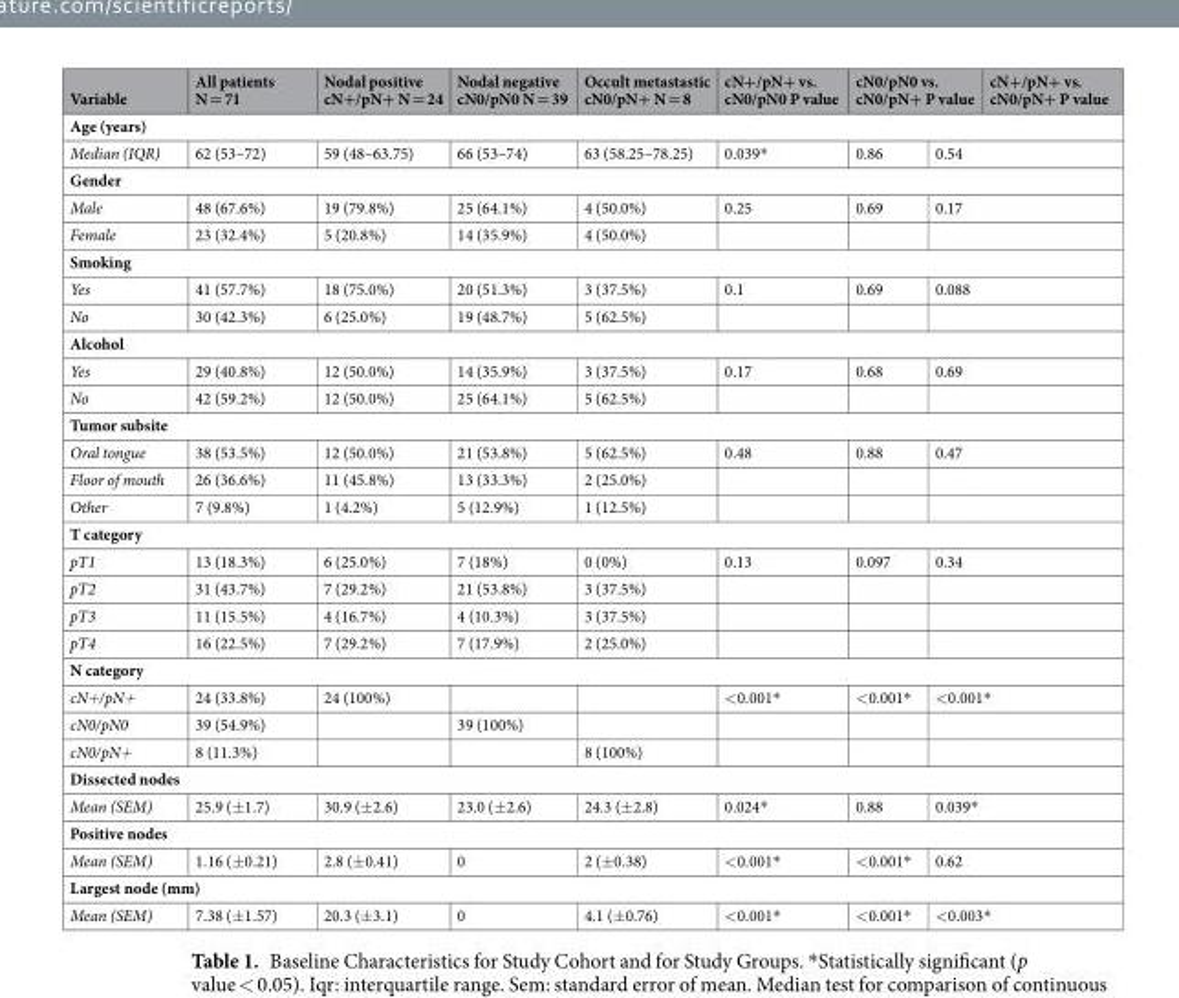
<table><thead><tr><td>Variable</td><td>All patients N = 71</td><td>Nodal positive cN+/pN+ N = 24</td><td>Nodal negative cN0/pN0 N = 39</td><td>Occult metastastic cN0/pN+ N = 8</td><td>cN+/pN+ vs. cN0/pN0 P value</td><td colspan="2">cN0/pN0 vs. cN0/pN+ P value</td><td>cN+/pN+ vs. cN0/pN+ P value</td></tr></thead><tbody><tr><td colspan="9">Age (years)</td></tr><tr><td>Median (IQR)</td><td>62 (53–72)</td><td>59 (48–63.75)</td><td>66 (53–74)</td><td>63 (58.25–78.25)</td><td>0.039*</td><td>0.86</td><td colspan="2">0.54</td></tr><tr><td colspan="9">Gender</td></tr><tr><td>Male</td><td>48 (67.6%)</td><td>19 (79.8%)</td><td>25 (64.1%)</td><td>4 (50.0%)</td><td>0.25</td><td>0.69</td><td colspan="2">0.17</td></tr><tr><td>Female</td><td>23 (32.4%)</td><td>5 (20.8%)</td><td>14 (35.9%)</td><td>4 (50.0%)</td><td></td><td></td><td colspan="2"></td></tr><tr><td colspan="9">Smoking</td></tr><tr><td>Yes</td><td>41 (57.7%)</td><td>18 (75.0%)</td><td>20 (51.3%)</td><td>3 (37.5%)</td><td>0.1</td><td>0.69</td><td colspan="2">0.088</td></tr><tr><td>No</td><td>30 (42.3%)</td><td>6 (25.0%)</td><td>19 (48.7%)</td><td>5 (62.5%)</td><td></td><td></td><td colspan="2"></td></tr><tr><td colspan="9">Alcohol</td></tr><tr><td>Yes</td><td>29 (40.8%)</td><td>12 (50.0%)</td><td>14 (35.9%)</td><td>3 (37.5%)</td><td>0.17</td><td>0.68</td><td colspan="2">0.69</td></tr><tr><td>No</td><td>42 (59.2%)</td><td>12 (50.0%)</td><td>25 (64.1%)</td><td>5 (62.5%)</td><td></td><td></td><td colspan="2"></td></tr><tr><td colspan="9">Tumor subsite</td></tr><tr><td>Oral tongue</td><td>38 (53.5%)</td><td>12 (50.0%)</td><td>21 (53.8%)</td><td>5 (62.5%)</td><td>0.48</td><td>0.88</td><td colspan="2">0.47</td></tr><tr><td>Floor of mouth</td><td>26 (36.6%)</td><td>11 (45.8%)</td><td>13 (33.3%)</td><td>2 (25.0%)</td><td></td><td></td><td colspan="2"></td></tr><tr><td>Other</td><td>7 (9.8%)</td><td>1 (4.2%)</td><td>5 (12.9%)</td><td>1 (12.5%)</td><td></td><td></td><td colspan="2"></td></tr><tr><td colspan="9">T category</td></tr><tr><td>pT1</td><td>13 (18.3%)</td><td>6 (25.0%)</td><td>7 (18%)</td><td>0 (0%)</td><td>0.13</td><td>0.097</td><td colspan="2">0.34</td></tr><tr><td>pT2</td><td>31 (43.7%)</td><td>7 (29.2%)</td><td>21 (53.8%)</td><td>3 (37.5%)</td><td></td><td></td><td colspan="2"></td></tr><tr><td>pT3</td><td>11 (15.5%)</td><td>4 (16.7%)</td><td>4 (10.3%)</td><td>3 (37.5%)</td><td></td><td></td><td colspan="2"></td></tr><tr><td>pT4</td><td>16 (22.5%)</td><td>7 (29.2%)</td><td>7 (17.9%)</td><td>2 (25.0%)</td><td></td><td></td><td colspan="2"></td></tr><tr><td colspan="9">N category</td></tr><tr><td>cN+/pN+</td><td>24 (33.8%)</td><td>24 (100%)</td><td></td><td></td><td>&lt;0.001*</td><td>&lt;0.001*</td><td colspan="2">&lt;0.001*</td></tr><tr><td>cN0/pN0</td><td>39 (54.9%)</td><td></td><td>39 (100%)</td><td></td><td></td><td></td><td colspan="2"></td></tr><tr><td>cN0/pN+</td><td>8 (11.3%)</td><td></td><td></td><td>8 (100%)</td><td></td><td></td><td colspan="2"></td></tr><tr><td colspan="9">Dissected nodes</td></tr><tr><td>Mean (SEM)</td><td>25.9 (±1.7)</td><td>30.9 (±2.6)</td><td>23.0 (±2.6)</td><td>24.3 (±2.8)</td><td>0.024*</td><td>0.88</td><td colspan="2">0.039*</td></tr><tr><td colspan="9">Positive nodes</td></tr><tr><td>Mean (SEM)</td><td>1.16 (±0.21)</td><td>2.8 (±0.41)</td><td>0</td><td>2 (±0.38)</td><td>&lt;0.001*</td><td>&lt;0.001*</td><td colspan="2">0.62</td></tr><tr><td colspan="9">Largest node (mm)</td></tr><tr><td>Mean (SEM)</td><td>7.38 (±1.57)</td><td>20.3 (±3.1)</td><td>0</td><td>4.1 (±0.76)</td><td>&lt;0.001*</td><td>&lt;0.001*</td><td colspan="2">&lt;0.003*</td></tr></tbody></table>